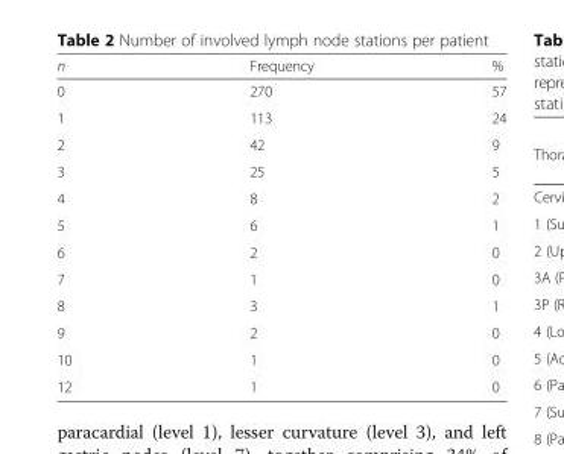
<table><thead><tr><td>n</td><td>Frequency</td><td>%</td></tr></thead><tbody><tr><td>0</td><td>270</td><td>57</td></tr><tr><td>1</td><td>113</td><td>24</td></tr><tr><td>2</td><td>42</td><td>9</td></tr><tr><td>3</td><td>25</td><td>5</td></tr><tr><td>4</td><td>8</td><td>2</td></tr><tr><td>5</td><td>6</td><td>1</td></tr><tr><td>6</td><td>2</td><td>0</td></tr><tr><td>7</td><td>1</td><td>0</td></tr><tr><td>8</td><td>3</td><td>1</td></tr><tr><td>9</td><td>2</td><td>0</td></tr><tr><td>10</td><td>1</td><td>0</td></tr><tr><td>12</td><td>1</td><td>0</td></tr></tbody></table>